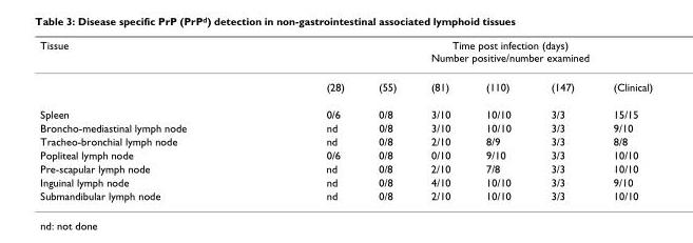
<table><thead><tr><td rowspan="2">Tissue</td><td colspan="6">Time post infection (days) Number positive/number examined</td></tr><tr><td>(28)</td><td>(55)</td><td>(81)</td><td>(110)</td><td>(147)</td><td>(Clinical)</td></tr></thead><tbody><tr><td>Spleen</td><td>0/6</td><td>0/8</td><td>3/10</td><td>10/10</td><td>3/3</td><td>15/15</td></tr><tr><td>Broncho-mediastinal lymph node</td><td>nd</td><td>0/8</td><td>3/10</td><td>10/10</td><td>3/3</td><td>9/10</td></tr><tr><td>Tracheo-bronchial lymph node</td><td>nd</td><td>0/8</td><td>2/10</td><td>8/9</td><td>3/3</td><td>8/8</td></tr><tr><td>Popliteal lymph node</td><td>0/6</td><td>0/8</td><td>0/10</td><td>9/10</td><td>3/3</td><td>10/10</td></tr><tr><td>Pre-scapular lymph node</td><td>nd</td><td>0/8</td><td>2/10</td><td>7/8</td><td>3/3</td><td>10/10</td></tr><tr><td>Inguinal lymph node</td><td>nd</td><td>0/8</td><td>4/10</td><td>10/10</td><td>3/3</td><td>9/10</td></tr><tr><td>Submandibular lymph node</td><td>nd</td><td>0/8</td><td>2/10</td><td>10/10</td><td>3/3</td><td>10/10</td></tr></tbody></table>